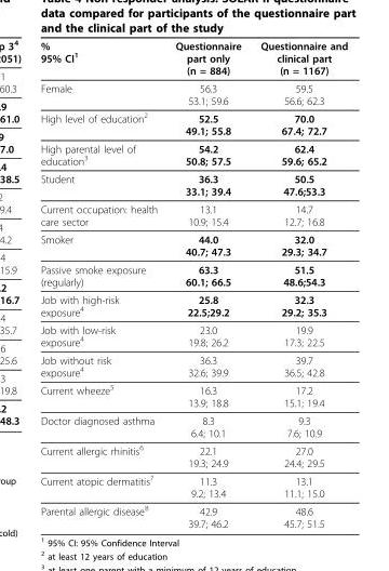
<table><thead><tr><td>% 95% CI<sup>1</sup></td><td>Questionnaire part only (n = 884)</td><td>Questionnaire and clinical part (n = 1167)</td></tr></thead><tbody><tr><td>Female</td><td>56.3 53.1; 59.6</td><td>59.5 56.6; 62.3</td></tr><tr><td>High level of education<sup>2</sup></td><td>52.5 49.1; 55.8</td><td>70.0 67.4; 72.7</td></tr><tr><td>High parental level of education<sup>3</sup></td><td>54.2 50.8; 57.5</td><td>62.4 59.6; 65.2</td></tr><tr><td>Student</td><td>36.3 33.1; 39.4</td><td>50.5 47.6;53.3</td></tr><tr><td>Current occupation: health care sector</td><td>13.1 10.9; 15.4</td><td>14.7 12.7; 16.8</td></tr><tr><td>Smoker</td><td>44.0 40.7; 47.3</td><td>32.0 29.3; 34.7</td></tr><tr><td>Passive smoke exposure (regularly)</td><td>63.3 60.1; 66.5</td><td>51.5 48.6;54.3</td></tr><tr><td>Job with high-risk exposure<sup>4</sup></td><td>25.8 22.5;29.2</td><td>32.3 29.2; 35.3</td></tr><tr><td>Job with low-risk exposure<sup>4</sup></td><td>23.0 19.8; 26.2</td><td>19.9 17.3; 22.5</td></tr><tr><td>Job without risk exposure<sup>4</sup></td><td>36.3 32.6; 39.9</td><td>39.7 36.5; 42.8</td></tr><tr><td>Current wheeze<sup>5</sup></td><td>16.3 13.9; 18.8</td><td>17.2 15.1; 19.4</td></tr><tr><td>Doctor diagnosed asthma</td><td>8.3 6.4; 10.1</td><td>9.3 7.6; 10.9</td></tr><tr><td>Current allergic rhinitis<sup>6</sup></td><td>22.1 19.3; 24.9</td><td>27.0 24.4; 29.5</td></tr><tr><td>Current atopic dermatitis<sup>7</sup></td><td>11.3 9.2; 13.4</td><td>13.1 11.1; 15.0</td></tr><tr><td>Parental allergic disease<sup>8</sup></td><td>42.9 39.7; 46.2</td><td>48.6 45.7; 51.5</td></tr></tbody></table>